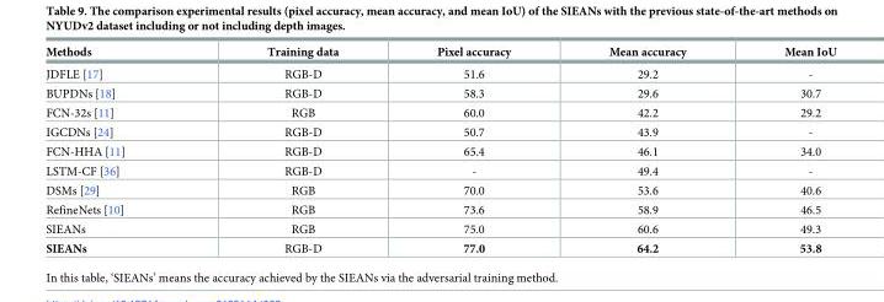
<table><thead><tr><td>Methods</td><td>Training data</td><td>Pixel accuracy</td><td>Mean accuracy</td><td>Mean IoU</td></tr></thead><tbody><tr><td>JDFLE [17]</td><td>RGB-D</td><td>51.6</td><td>29.2</td><td>-</td></tr><tr><td>BUPDNs [18]</td><td>RGB-D</td><td>58.3</td><td>29.6</td><td>30.7</td></tr><tr><td>FCN-32s [11]</td><td>RGB</td><td>60.0</td><td>42.2</td><td>29.2</td></tr><tr><td>IGCDNs [24]</td><td>RGB-D</td><td>50.7</td><td>43.9</td><td>-</td></tr><tr><td>FCN-HHA [11]</td><td>RGB-D</td><td>65.4</td><td>46.1</td><td>34.0</td></tr><tr><td>LSTM-CF [36]</td><td>RGB-D</td><td>-</td><td>49.4</td><td>-</td></tr><tr><td>DSMs [29]</td><td>RGB</td><td>70.0</td><td>53.6</td><td>40.6</td></tr><tr><td>RefineNets [10]</td><td>RGB</td><td>73.6</td><td>58.9</td><td>46.5</td></tr><tr><td>SIEANs</td><td>RGB</td><td>75.0</td><td>60.6</td><td>49.3</td></tr><tr><td>SIEANs</td><td>RGB-D</td><td>77.0</td><td>64.2</td><td>53.8</td></tr></tbody></table>